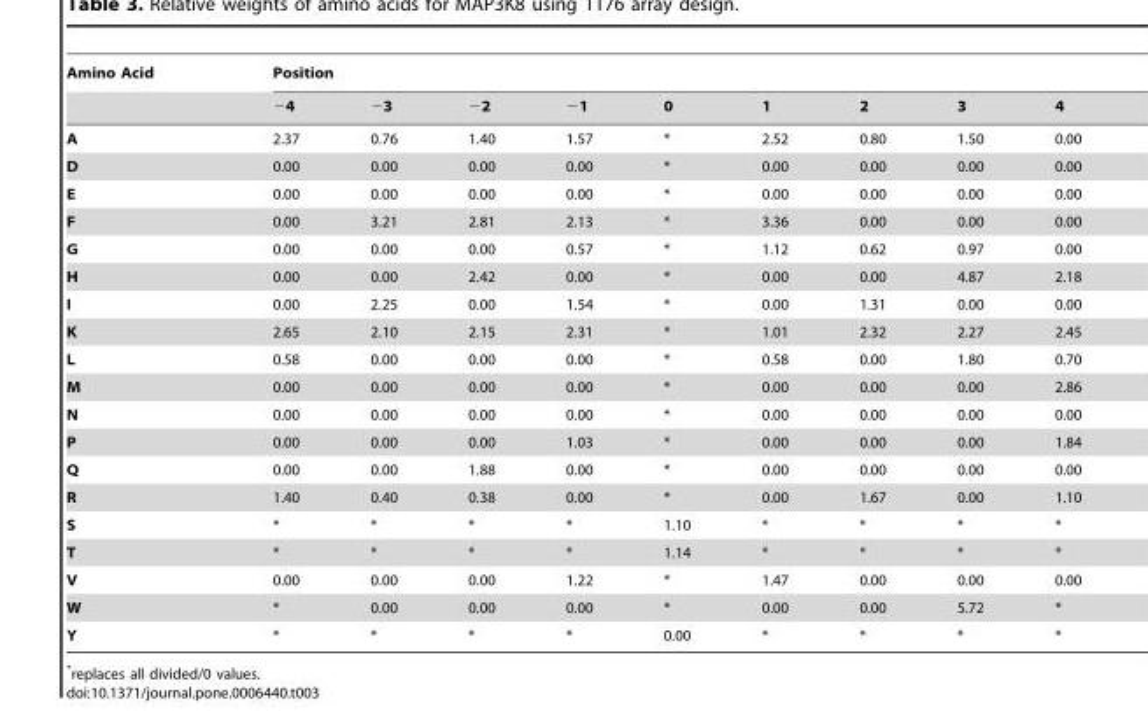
<table><thead><tr><td rowspan="2">Amino Acid</td><td colspan="9">Position</td></tr><tr><td>−4</td><td>−3</td><td>−2</td><td>−1</td><td>0</td><td>1</td><td>2</td><td>3</td><td>4</td></tr></thead><tbody><tr><td>A</td><td>2.37</td><td>0.76</td><td>1.40</td><td>1.57</td><td>*</td><td>2.52</td><td>0.80</td><td>1.50</td><td>0.00</td></tr><tr><td>D</td><td>0.00</td><td>0.00</td><td>0.00</td><td>0.00</td><td>*</td><td>0.00</td><td>0.00</td><td>0.00</td><td>0.00</td></tr><tr><td>E</td><td>0.00</td><td>0.00</td><td>0.00</td><td>0.00</td><td>*</td><td>0.00</td><td>0.00</td><td>0.00</td><td>0.00</td></tr><tr><td>F</td><td>0.00</td><td>3.21</td><td>2.81</td><td>2.13</td><td>*</td><td>3.36</td><td>0.00</td><td>0.00</td><td>0.00</td></tr><tr><td>G</td><td>0.00</td><td>0.00</td><td>0.00</td><td>0.57</td><td>*</td><td>1.12</td><td>0.62</td><td>0.97</td><td>0.00</td></tr><tr><td>H</td><td>0.00</td><td>0.00</td><td>2.42</td><td>0.00</td><td>*</td><td>0.00</td><td>0.00</td><td>4.87</td><td>2.18</td></tr><tr><td>I</td><td>0.00</td><td>2.25</td><td>0.00</td><td>1.54</td><td>*</td><td>0.00</td><td>1.31</td><td>0.00</td><td>0.00</td></tr><tr><td>K</td><td>2.65</td><td>2.10</td><td>2.15</td><td>2.31</td><td>*</td><td>1.01</td><td>2.32</td><td>2.27</td><td>2.45</td></tr><tr><td>L</td><td>0.58</td><td>0.00</td><td>0.00</td><td>0.00</td><td>*</td><td>0.58</td><td>0.00</td><td>1.80</td><td>0.70</td></tr><tr><td>M</td><td>0.00</td><td>0.00</td><td>0.00</td><td>0.00</td><td>*</td><td>0.00</td><td>0.00</td><td>0.00</td><td>2.86</td></tr><tr><td>N</td><td>0.00</td><td>0.00</td><td>0.00</td><td>0.00</td><td>*</td><td>0.00</td><td>0.00</td><td>0.00</td><td>0.00</td></tr><tr><td>P</td><td>0.00</td><td>0.00</td><td>0.00</td><td>1.03</td><td>*</td><td>0.00</td><td>0.00</td><td>0.00</td><td>1.84</td></tr><tr><td>Q</td><td>0.00</td><td>0.00</td><td>1.88</td><td>0.00</td><td>*</td><td>0.00</td><td>0.00</td><td>0.00</td><td>0.00</td></tr><tr><td>R</td><td>1.40</td><td>0.40</td><td>0.38</td><td>0.00</td><td>*</td><td>0.00</td><td>1.67</td><td>0.00</td><td>1.10</td></tr><tr><td>S</td><td>*</td><td>*</td><td>*</td><td>*</td><td>1.10</td><td>*</td><td>*</td><td>*</td><td>*</td></tr><tr><td>T</td><td>*</td><td>*</td><td>*</td><td>*</td><td>1.14</td><td>*</td><td>*</td><td>*</td><td>*</td></tr><tr><td>V</td><td>0.00</td><td>0.00</td><td>0.00</td><td>1.22</td><td>*</td><td>1.47</td><td>0.00</td><td>0.00</td><td>0.00</td></tr><tr><td>W</td><td>*</td><td>0.00</td><td>0.00</td><td>0.00</td><td>*</td><td>0.00</td><td>0.00</td><td>5.72</td><td>*</td></tr><tr><td>Y</td><td>*</td><td>*</td><td>*</td><td>*</td><td>0.00</td><td>*</td><td>*</td><td>*</td><td>*</td></tr></tbody></table>